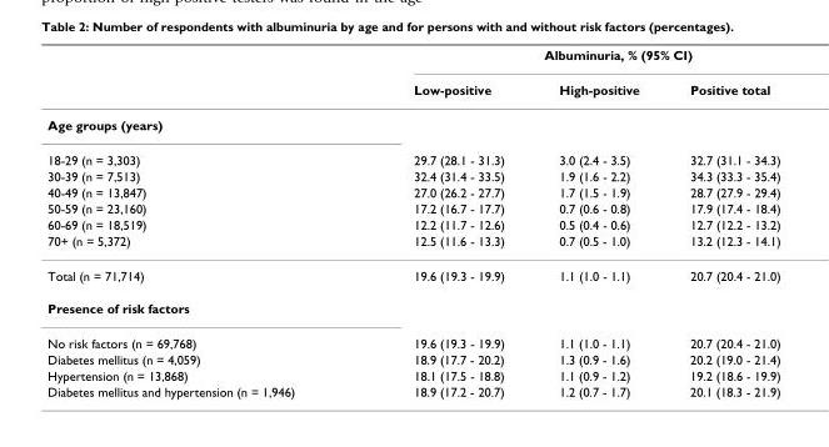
<table><thead><tr><td rowspan="2"></td><td colspan="3">Albuminuria, % (95% CI)</td></tr><tr><td>Low-positive</td><td>High-positive</td><td>Positive total</td></tr></thead><tbody><tr><td colspan="4">Age groups (years)</td></tr><tr><td>18-29 (n = 3,303)</td><td>29.7 (28.1 - 31.3)</td><td>3.0 (2.4 - 3.5)</td><td>32.7 (31.1 - 34.3)</td></tr><tr><td>30-39 (n = 7,513)</td><td>32.4 (31.4 - 33.5)</td><td>1.9 (1.6 - 2.2)</td><td>34.3 (33.3 - 35.4)</td></tr><tr><td>40-49 (n = 13,847)</td><td>27.0 (26.2 - 27.7)</td><td>1.7 (1.5 - 1.9)</td><td>28.7 (27.9 - 29.4)</td></tr><tr><td>50-59 (n = 23,160)</td><td>17.2 (16.7 - 17.7)</td><td>0.7 (0.6 - 0.8)</td><td>17.9 (17.4 - 18.4)</td></tr><tr><td>60-69 (n = 18,519)</td><td>12.2 (11.7 - 12.6)</td><td>0.5 (0.4 - 0.6)</td><td>12.7 (12.2 - 13.2)</td></tr><tr><td>70+ (n = 5,372)</td><td>12.5 (11.6 - 13.3)</td><td>0.7 (0.5 - 1.0)</td><td>13.2 (12.3 - 14.1)</td></tr><tr><td>Total (n = 71,714)</td><td>19.6 (19.3 - 19.9)</td><td>1.1 (1.0 - 1.1)</td><td>20.7 (20.4 - 21.0)</td></tr><tr><td colspan="4">Presence of risk factors</td></tr><tr><td>No risk factors (n = 69,768)</td><td>19.6 (19.3 - 19.9)</td><td>1.1 (1.0 - 1.1)</td><td>20.7 (20.4 - 21.0)</td></tr><tr><td>Diabetes mellitus (n = 4,059)</td><td>18.9 (17.7 - 20.2)</td><td>1.3 (0.9 - 1.6)</td><td>20.2 (19.0 - 21.4)</td></tr><tr><td>Hypertension (n = 13,868)</td><td>18.1 (17.5 - 18.8)</td><td>1.1 (0.9 - 1.2)</td><td>19.2 (18.6 - 19.9)</td></tr><tr><td>Diabetes mellitus and hypertension (n = 1,946)</td><td>18.9 (17.2 - 20.7)</td><td>1.2 (0.7 - 1.7)</td><td>20.1 (18.3 - 21.9)</td></tr></tbody></table>